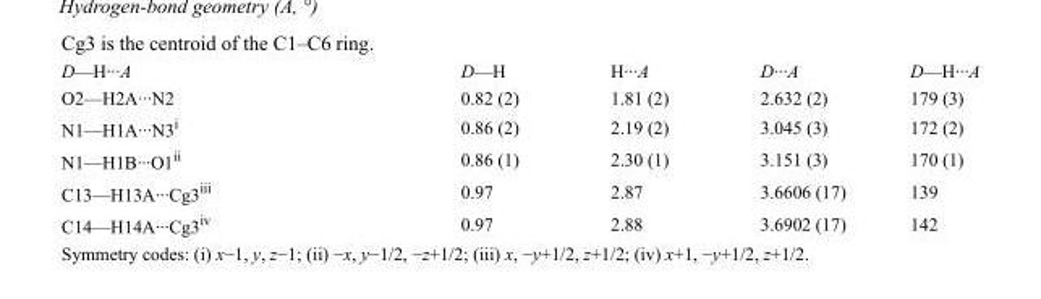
<table><tbody><tr><td>D—H···A</td><td>D—H</td><td>H···A</td><td>D···A</td><td>D—H···A</td></tr><tr><td>O2—H2A···N2</td><td>0.82 (2)</td><td>1.81 (2)</td><td>2.632 (2)</td><td>179 (3)</td></tr><tr><td>N1—H1A···N3<sup>i</sup></td><td>0.86 (2)</td><td>2.19 (2)</td><td>3.045 (3)</td><td>172 (2)</td></tr><tr><td>N1—H1B···O1<sup>ii</sup></td><td>0.86 (1)</td><td>2.30 (1)</td><td>3.151 (3)</td><td>170 (1)</td></tr><tr><td>C13—H13A···Cg3<sup>iii</sup></td><td>0.97</td><td>2.87</td><td>3.6606 (17)</td><td>139</td></tr><tr><td>C14—H14A···Cg3<sup>iv</sup></td><td>0.97</td><td>2.88</td><td>3.6902 (17)</td><td>142</td></tr></tbody></table>